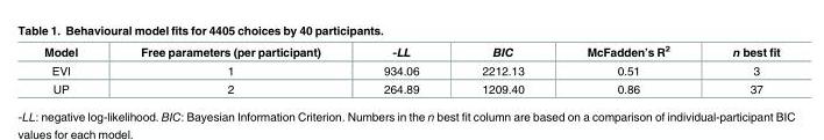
<table><thead><tr><td>Model</td><td>Free parameters (per participant)</td><td>-LL</td><td>BIC</td><td>McFadden’s R<sup>2</sup></td><td>n best fit</td></tr></thead><tbody><tr><td>EVI</td><td>1</td><td>934.06</td><td>2212.13</td><td>0.51</td><td>3</td></tr><tr><td>UP</td><td>2</td><td>264.89</td><td>1209.40</td><td>0.86</td><td>37</td></tr></tbody></table>